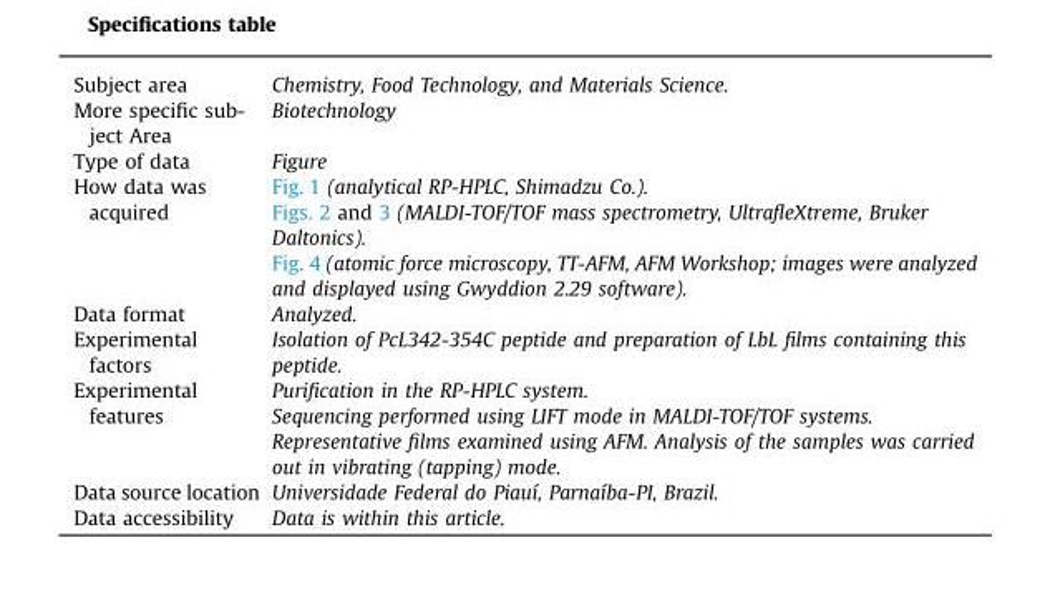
<table><tbody><tr><td>Subject area</td><td>Chemistry, Food Technology, and Materials Science.</td></tr><tr><td>More specific sub- ject Area</td><td>Biotechnology</td></tr><tr><td>Type of data</td><td>Figure</td></tr><tr><td rowspan="3">How data was acquired</td><td>Fig. 1 (analytical RP-HPLC, Shimadzu Co.).</td></tr><tr><td>Figs. 2 and 3 (MALDI-TOF/TOF mass spectrometry, UltrafleXtreme, Bruker Daltonics).</td></tr><tr><td>Fig. 4 (atomic force microscopy, TT-AFM, AFM Workshop; images were analyzed and displayed using Gwyddion 2.29 software).</td></tr><tr><td>Data format</td><td>Analyzed.</td></tr><tr><td>Experimental factors</td><td>Isolation of PcL342-354C peptide and preparation of LbL films containing this peptide.</td></tr><tr><td rowspan="3">Experimental features</td><td>Purification in the RP-HPLC system.</td></tr><tr><td>Sequencing performed using LIFT mode in MALDI-TOF/TOF systems.</td></tr><tr><td>Representative films examined using AFM. Analysis of the samples was carried out in vibrating (tapping) mode.</td></tr><tr><td>Data source location</td><td>Universidade Federal do Piauí, Parnaíba-PI, Brazil.</td></tr><tr><td>Data accessibility</td><td>Data is within this article.</td></tr></tbody></table>